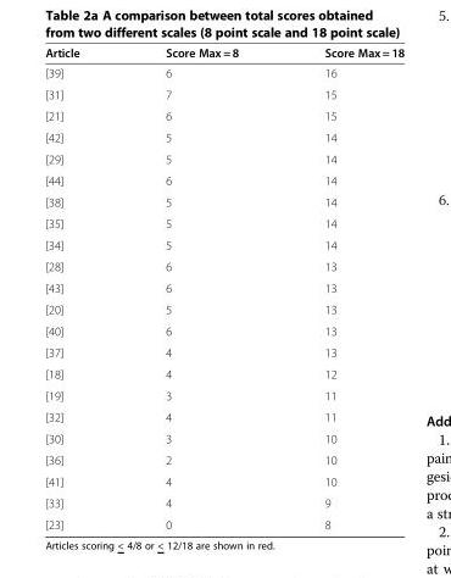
<table><thead><tr><td>Article</td><td>Score Max = 8</td><td>Score Max = 18</td></tr></thead><tbody><tr><td>[39]</td><td>6</td><td>16</td></tr><tr><td>[31]</td><td>7</td><td>15</td></tr><tr><td>[21]</td><td>6</td><td>15</td></tr><tr><td>[42]</td><td>5</td><td>14</td></tr><tr><td>[29]</td><td>5</td><td>14</td></tr><tr><td>[44]</td><td>6</td><td>14</td></tr><tr><td>[38]</td><td>5</td><td>14</td></tr><tr><td>[35]</td><td>5</td><td>14</td></tr><tr><td>[34]</td><td>5</td><td>14</td></tr><tr><td>[28]</td><td>6</td><td>13</td></tr><tr><td>[43]</td><td>6</td><td>13</td></tr><tr><td>[20]</td><td>5</td><td>13</td></tr><tr><td>[40]</td><td>6</td><td>13</td></tr><tr><td>[37]</td><td>4</td><td>13</td></tr><tr><td>[18]</td><td>4</td><td>12</td></tr><tr><td>[19]</td><td>3</td><td>11</td></tr><tr><td>[32]</td><td>4</td><td>11</td></tr><tr><td>[30]</td><td>3</td><td>10</td></tr><tr><td>[36]</td><td>2</td><td>10</td></tr><tr><td>[41]</td><td>4</td><td>10</td></tr><tr><td>[33]</td><td>4</td><td>9</td></tr><tr><td>[23]</td><td>0</td><td>8</td></tr></tbody></table>